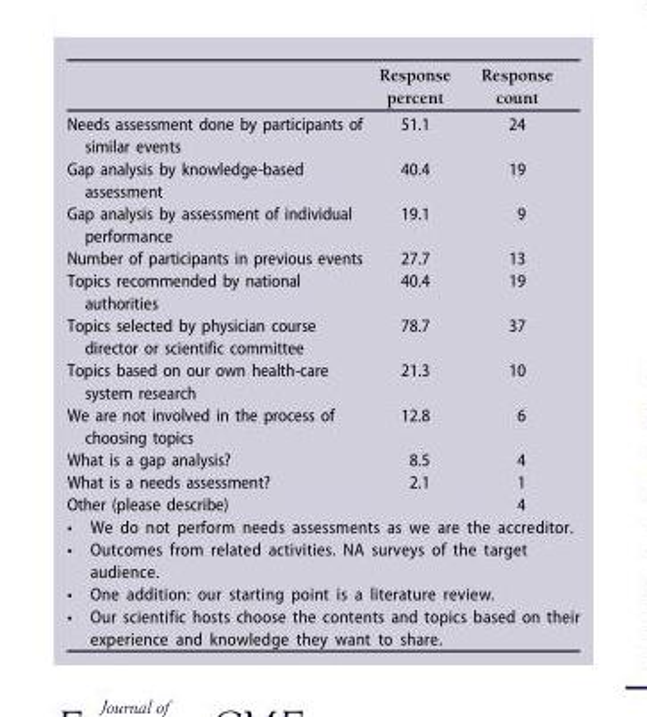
<table><thead><tr><td></td><td>Response percent</td><td>Response count</td></tr></thead><tbody><tr><td>Needs assessment done by participants of similar events</td><td>51.1</td><td>24</td></tr><tr><td>Gap analysis by knowledge-based assessment</td><td>40.4</td><td>19</td></tr><tr><td>Gap analysis by assessment of individual performance</td><td>19.1</td><td>9</td></tr><tr><td>Number of participants in previous events</td><td>27.7</td><td>13</td></tr><tr><td>Topics recommended by national authorities</td><td>40.4</td><td>19</td></tr><tr><td>Topics selected by physician course director or scientific committee</td><td>78.7</td><td>37</td></tr><tr><td>Topics based on our own health-care system research</td><td>21.3</td><td>10</td></tr><tr><td>We are not involved in the process of choosing topics</td><td>12.8</td><td>6</td></tr><tr><td>What is a gap analysis?</td><td>8.5</td><td>4</td></tr><tr><td>What is a needs assessment?</td><td>2.1</td><td>1</td></tr><tr><td>Other (please describe)</td><td></td><td>4</td></tr><tr><td colspan="3">• We do not perform needs assessments as we are the accreditor. • Outcomes from related activities. NA surveys of the target audience. • One addition: our starting point is a literature review. • Our scientific hosts choose the contents and topics based on their experience and knowledge they want to share.</td></tr></tbody></table>